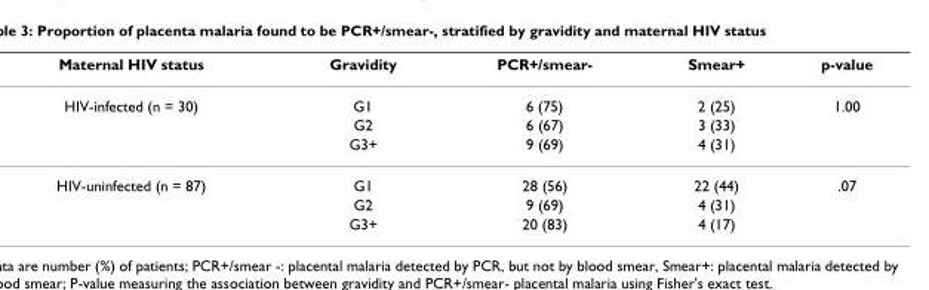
<table><thead><tr><td>Maternal HIV status</td><td>Gravidity</td><td>PCR+/smear-</td><td>Smear+</td><td>p-value</td></tr></thead><tbody><tr><td rowspan="3">HIV-infected (n = 30)</td><td>G1</td><td>6 (75)</td><td>2 (25)</td><td>1.00</td></tr><tr><td>G2</td><td>6 (67)</td><td>3 (33)</td><td></td></tr><tr><td>G3+</td><td>9 (69)</td><td>4 (31)</td><td></td></tr><tr><td rowspan="3">HIV-uninfected (n = 87)</td><td>G1</td><td>28 (56)</td><td>22 (44)</td><td>.07</td></tr><tr><td>G2</td><td>9 (69)</td><td>4 (31)</td><td></td></tr><tr><td>G3+</td><td>20 (83)</td><td>4 (17)</td><td></td></tr></tbody></table>